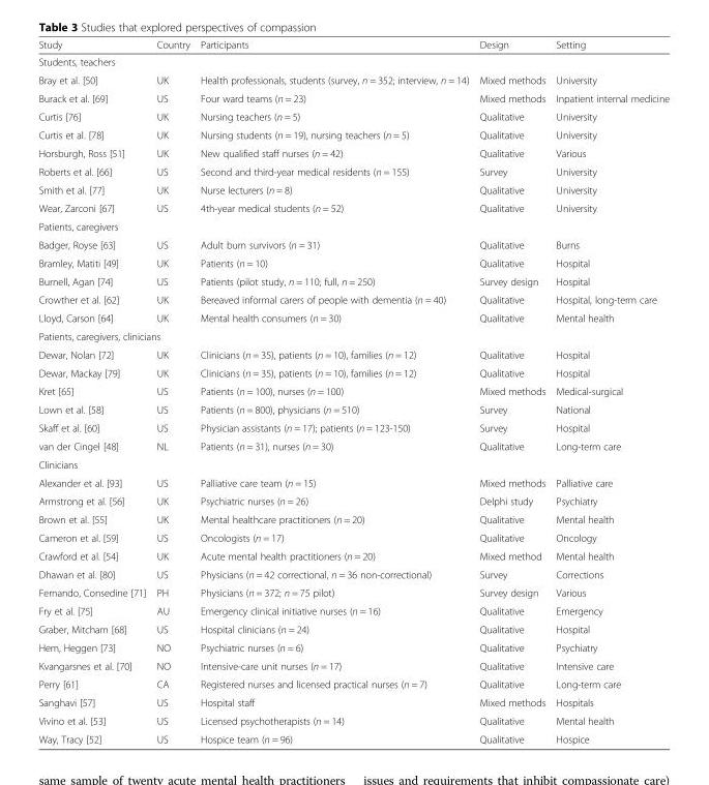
<table><thead><tr><td>Study</td><td>Country</td><td>Participants</td><td>Design</td><td>Setting</td></tr></thead><tbody><tr><td colspan="5">Students, teachers</td></tr><tr><td>Bray et al. [50]</td><td>UK</td><td>Health professionals, students (survey, n = 352; interview, n = 14)</td><td>Mixed methods</td><td>University</td></tr><tr><td>Burack et al. [69]</td><td>US</td><td>Four ward teams (n = 23)</td><td>Mixed methods</td><td>Inpatient internal medicine</td></tr><tr><td>Curtis [76]</td><td>UK</td><td>Nursing teachers (n = 5)</td><td>Qualitative</td><td>University</td></tr><tr><td>Curtis et al. [78]</td><td>UK</td><td>Nursing students (n = 19), nursing teachers (n = 5)</td><td>Qualitative</td><td>University</td></tr><tr><td>Horsburgh, Ross [51]</td><td>UK</td><td>New qualified staff nurses (n = 42)</td><td>Qualitative</td><td>Various</td></tr><tr><td>Roberts et al. [66]</td><td>US</td><td>Second and third-year medical residents (n = 155)</td><td>Survey</td><td>University</td></tr><tr><td>Smith et al. [77]</td><td>UK</td><td>Nurse lecturers (n = 8)</td><td>Qualitative</td><td>University</td></tr><tr><td>Wear, Zarconi [67]</td><td>US</td><td>4th-year medical students (n = 52)</td><td>Qualitative</td><td>University</td></tr><tr><td colspan="5">Patients, caregivers</td></tr><tr><td>Badger, Royse [63]</td><td>US</td><td>Adult burn survivors (n = 31)</td><td>Qualitative</td><td>Burns</td></tr><tr><td>Bramley, Matiti [49]</td><td>UK</td><td>Patients (n = 10)</td><td>Qualitative</td><td>Hospital</td></tr><tr><td>Burnell, Agan [74]</td><td>US</td><td>Patients (pilot study, n = 110; full, n = 250)</td><td>Survey design</td><td>Hospital</td></tr><tr><td>Crowther et al. [62]</td><td>UK</td><td>Bereaved informal carers of people with dementia (n = 40)</td><td>Qualitative</td><td>Hospital, long-term care</td></tr><tr><td>Lloyd, Carson [64]</td><td>UK</td><td>Mental health consumers (n = 30)</td><td>Qualitative</td><td>Mental health</td></tr><tr><td colspan="5">Patients, caregivers, clinicians</td></tr><tr><td>Dewar, Nolan [72]</td><td>UK</td><td>Clinicians (n = 35), patients (n = 10), families (n = 12)</td><td>Qualitative</td><td>Hospital</td></tr><tr><td>Dewar, Mackay [79]</td><td>UK</td><td>Clinicians (n = 35), patients (n = 10), families (n = 12)</td><td>Qualitative</td><td>Hospital</td></tr><tr><td>Kret [65]</td><td>US</td><td>Patients (n = 100), nurses (n = 100)</td><td>Mixed methods</td><td>Medical-surgical</td></tr><tr><td>Lown et al. [58]</td><td>US</td><td>Patients (n = 800), physicians (n = 510)</td><td>Survey</td><td>National</td></tr><tr><td>Skaff et al. [60]</td><td>US</td><td>Physician assistants (n = 17); patients (n = 123-150)</td><td>Survey</td><td>Hospital</td></tr><tr><td>van der Cingel [48]</td><td>NL</td><td>Patients (n = 31), nurses (n = 30)</td><td>Qualitative</td><td>Long-term care</td></tr><tr><td colspan="5">Clinicians</td></tr><tr><td>Alexander et al. [93]</td><td>US</td><td>Palliative care team (n = 15)</td><td>Mixed methods</td><td>Palliative care</td></tr><tr><td>Armstrong et al. [56]</td><td>UK</td><td>Psychiatric nurses (n = 26)</td><td>Delphi study</td><td>Psychiatry</td></tr><tr><td>Brown et al. [55]</td><td>UK</td><td>Mental healthcare practitioners (n = 20)</td><td>Qualitative</td><td>Mental health</td></tr><tr><td>Cameron et al. [59]</td><td>US</td><td>Oncologists (n = 17)</td><td>Qualitative</td><td>Oncology</td></tr><tr><td>Crawford et al. [54]</td><td>UK</td><td>Acute mental health practitioners (n = 20)</td><td>Mixed method</td><td>Mental health</td></tr><tr><td>Dhawan et al. [80]</td><td>US</td><td>Physicians (n = 42 correctional, n = 36 non-correctional)</td><td>Survey</td><td>Corrections</td></tr><tr><td>Fernando, Consedine [71]</td><td>PH</td><td>Physicians (n = 372; n = 75 pilot)</td><td>Survey design</td><td>Various</td></tr><tr><td>Fry et al. [75]</td><td>AU</td><td>Emergency clinical initiative nurses (n = 16)</td><td>Qualitative</td><td>Emergency</td></tr><tr><td>Graber, Mitcham [68]</td><td>US</td><td>Hospital clinicians (n = 24)</td><td>Qualitative</td><td>Hospital</td></tr><tr><td>Hem, Heggen [73]</td><td>NO</td><td>Psychiatric nurses (n = 6)</td><td>Qualitative</td><td>Psychiatry</td></tr><tr><td>Kvangarsnes et al. [70]</td><td>NO</td><td>Intensive-care unit nurses (n = 17)</td><td>Qualitative</td><td>Intensive care</td></tr><tr><td>Perry [61]</td><td>CA</td><td>Registered nurses and licensed practical nurses (n = 7)</td><td>Qualitative</td><td>Long-term care</td></tr><tr><td>Sanghavi [57]</td><td>US</td><td>Hospital staff</td><td>Mixed methods</td><td>Hospitals</td></tr><tr><td>Vivino et al. [53]</td><td>US</td><td>Licensed psychotherapists (n = 14)</td><td>Qualitative</td><td>Mental health</td></tr><tr><td>Way, Tracy [52]</td><td>US</td><td>Hospice team (n = 96)</td><td>Qualitative</td><td>Hospice</td></tr></tbody></table>